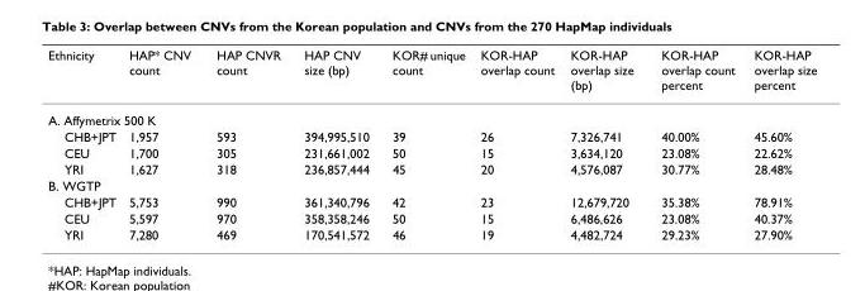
<table><thead><tr><td>Ethnicity</td><td>HAP* CNV count</td><td>HAP CNVR count</td><td>HAP CNV size (bp)</td><td>KOR# unique count</td><td>KOR-HAP overlap count</td><td>KOR-HAP overlap size (bp)</td><td>KOR-HAP overlap count percent</td><td>KOR-HAP overlap size percent</td></tr></thead><tbody><tr><td colspan="9">A. Affymetrix 500 K</td></tr><tr><td>CHB+JPT</td><td>1,957</td><td>593</td><td>394,995,510</td><td>39</td><td>26</td><td>7,326,741</td><td>40.00%</td><td>45.60%</td></tr><tr><td>CEU</td><td>1,700</td><td>305</td><td>231,661,002</td><td>50</td><td>15</td><td>3,634,120</td><td>23.08%</td><td>22.62%</td></tr><tr><td>YRI</td><td>1,627</td><td>318</td><td>236,857,444</td><td>45</td><td>20</td><td>4,576,087</td><td>30.77%</td><td>28.48%</td></tr><tr><td colspan="9">B. WGTP</td></tr><tr><td>CHB+JPT</td><td>5,753</td><td>990</td><td>361,340,796</td><td>42</td><td>23</td><td>12,679,720</td><td>35.38%</td><td>78.91%</td></tr><tr><td>CEU</td><td>5,597</td><td>970</td><td>358,358,246</td><td>50</td><td>15</td><td>6,486,626</td><td>23.08%</td><td>40.37%</td></tr><tr><td>YRI</td><td>7,280</td><td>469</td><td>170,541,572</td><td>46</td><td>19</td><td>4,482,724</td><td>29.23%</td><td>27.90%</td></tr></tbody></table>